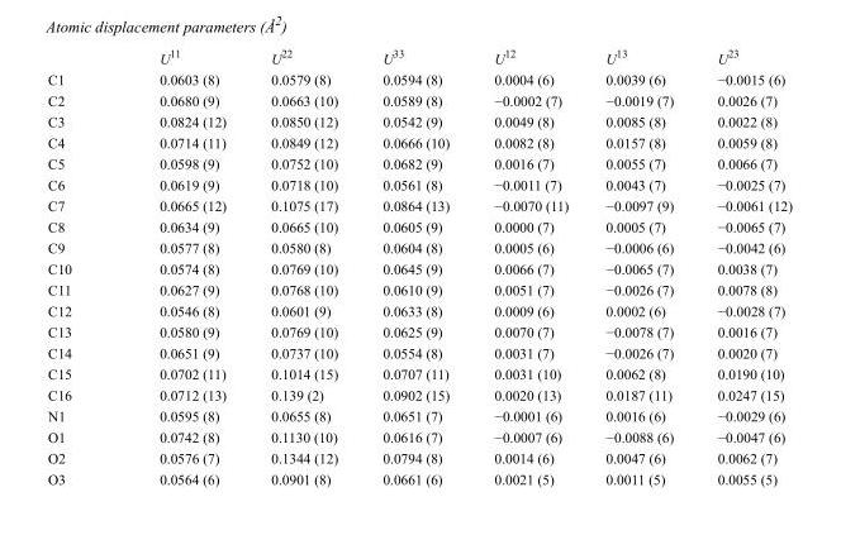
<table><thead><tr><td></td><td>U<sup>11</sup></td><td>U<sup>22</sup></td><td>U<sup>33</sup></td><td>U<sup>12</sup></td><td>U<sup>13</sup></td><td>U<sup>23</sup></td></tr></thead><tbody><tr><td>C1</td><td>0.0603 (8)</td><td>0.0579 (8)</td><td>0.0594 (8)</td><td>0.0004 (6)</td><td>0.0039 (6)</td><td>−0.0015 (6)</td></tr><tr><td>C2</td><td>0.0680 (9)</td><td>0.0663 (10)</td><td>0.0589 (8)</td><td>−0.0002 (7)</td><td>−0.0019 (7)</td><td>0.0026 (7)</td></tr><tr><td>C3</td><td>0.0824 (12)</td><td>0.0850 (12)</td><td>0.0542 (9)</td><td>0.0049 (8)</td><td>0.0085 (8)</td><td>0.0022 (8)</td></tr><tr><td>C4</td><td>0.0714 (11)</td><td>0.0849 (12)</td><td>0.0666 (10)</td><td>0.0082 (8)</td><td>0.0157 (8)</td><td>0.0059 (8)</td></tr><tr><td>C5</td><td>0.0598 (9)</td><td>0.0752 (10)</td><td>0.0682 (9)</td><td>0.0016 (7)</td><td>0.0055 (7)</td><td>0.0066 (7)</td></tr><tr><td>C6</td><td>0.0619 (9)</td><td>0.0718 (10)</td><td>0.0561 (8)</td><td>−0.0011 (7)</td><td>0.0043 (7)</td><td>−0.0025 (7)</td></tr><tr><td>C7</td><td>0.0665 (12)</td><td>0.1075 (17)</td><td>0.0864 (13)</td><td>−0.0070 (11)</td><td>−0.0097 (9)</td><td>−0.0061 (12)</td></tr><tr><td>C8</td><td>0.0634 (9)</td><td>0.0665 (10)</td><td>0.0605 (9)</td><td>0.0000 (7)</td><td>0.0005 (7)</td><td>−0.0065 (7)</td></tr><tr><td>C9</td><td>0.0577 (8)</td><td>0.0580 (8)</td><td>0.0604 (8)</td><td>0.0005 (6)</td><td>−0.0006 (6)</td><td>−0.0042 (6)</td></tr><tr><td>C10</td><td>0.0574 (8)</td><td>0.0769 (10)</td><td>0.0645 (9)</td><td>0.0066 (7)</td><td>−0.0065 (7)</td><td>0.0038 (7)</td></tr><tr><td>C11</td><td>0.0627 (9)</td><td>0.0768 (10)</td><td>0.0610 (9)</td><td>0.0051 (7)</td><td>−0.0026 (7)</td><td>0.0078 (8)</td></tr><tr><td>C12</td><td>0.0546 (8)</td><td>0.0601 (9)</td><td>0.0633 (8)</td><td>0.0009 (6)</td><td>0.0002 (6)</td><td>−0.0028 (7)</td></tr><tr><td>C13</td><td>0.0580 (9)</td><td>0.0769 (10)</td><td>0.0625 (9)</td><td>0.0070 (7)</td><td>−0.0078 (7)</td><td>0.0016 (7)</td></tr><tr><td>C14</td><td>0.0651 (9)</td><td>0.0737 (10)</td><td>0.0554 (8)</td><td>0.0031 (7)</td><td>−0.0026 (7)</td><td>0.0020 (7)</td></tr><tr><td>C15</td><td>0.0702 (11)</td><td>0.1014 (15)</td><td>0.0707 (11)</td><td>0.0031 (10)</td><td>0.0062 (8)</td><td>0.0190 (10)</td></tr><tr><td>C16</td><td>0.0712 (13)</td><td>0.139 (2)</td><td>0.0902 (15)</td><td>0.0020 (13)</td><td>0.0187 (11)</td><td>0.0247 (15)</td></tr><tr><td>N1</td><td>0.0595 (8)</td><td>0.0655 (8)</td><td>0.0651 (7)</td><td>−0.0001 (6)</td><td>0.0016 (6)</td><td>−0.0029 (6)</td></tr><tr><td>O1</td><td>0.0742 (8)</td><td>0.1130 (10)</td><td>0.0616 (7)</td><td>−0.0007 (6)</td><td>−0.0088 (6)</td><td>−0.0047 (6)</td></tr><tr><td>O2</td><td>0.0576 (7)</td><td>0.1344 (12)</td><td>0.0794 (8)</td><td>0.0014 (6)</td><td>0.0047 (6)</td><td>0.0062 (7)</td></tr><tr><td>O3</td><td>0.0564 (6)</td><td>0.0901 (8)</td><td>0.0661 (6)</td><td>0.0021 (5)</td><td>0.0011 (5)</td><td>0.0055 (5)</td></tr></tbody></table>